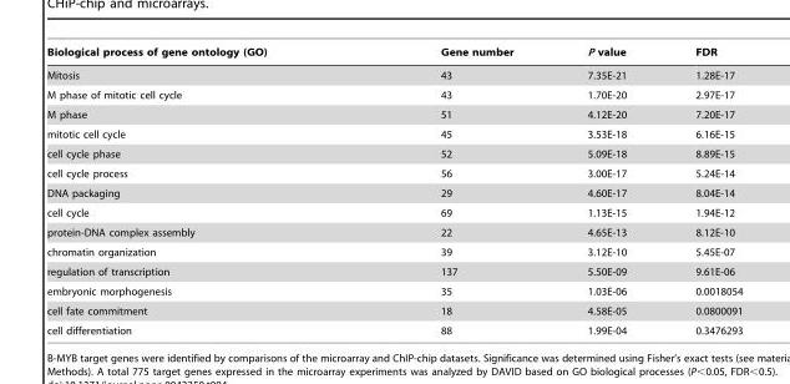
<table><thead><tr><td>Biological process of gene ontology (GO)</td><td>Gene number</td><td>P value</td><td>FDR</td></tr></thead><tbody><tr><td>Mitosis</td><td>43</td><td>7.35E-21</td><td>1.28E-17</td></tr><tr><td>M phase of mitotic cell cycle</td><td>43</td><td>1.70E-20</td><td>2.97E-17</td></tr><tr><td>M phase</td><td>51</td><td>4.12E-20</td><td>7.20E-17</td></tr><tr><td>mitotic cell cycle</td><td>45</td><td>3.53E-18</td><td>6.16E-15</td></tr><tr><td>cell cycle phase</td><td>52</td><td>5.09E-18</td><td>8.89E-15</td></tr><tr><td>cell cycle process</td><td>56</td><td>3.00E-17</td><td>5.24E-14</td></tr><tr><td>DNA packaging</td><td>29</td><td>4.60E-17</td><td>8.04E-14</td></tr><tr><td>cell cycle</td><td>69</td><td>1.13E-15</td><td>1.94E-12</td></tr><tr><td>protein-DNA complex assembly</td><td>22</td><td>4.65E-13</td><td>8.12E-10</td></tr><tr><td>chromatin organization</td><td>39</td><td>3.12E-10</td><td>5.45E-07</td></tr><tr><td>regulation of transcription</td><td>137</td><td>5.50E-09</td><td>9.61E-06</td></tr><tr><td>embryonic morphogenesis</td><td>35</td><td>1.03E-06</td><td>0.0018054</td></tr><tr><td>cell fate commitment</td><td>18</td><td>4.58E-05</td><td>0.0800091</td></tr><tr><td>cell differentiation</td><td>88</td><td>1.99E-04</td><td>0.3476293</td></tr></tbody></table>